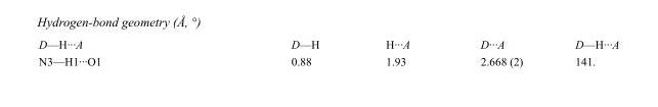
<table><tbody><tr><td>D—H···A</td><td>D—H</td><td>H···A</td><td>D···A</td><td>D—H···A</td></tr><tr><td>N3—H1···O1</td><td>0.88</td><td>1.93</td><td>2.668 (2)</td><td>141.</td></tr></tbody></table>